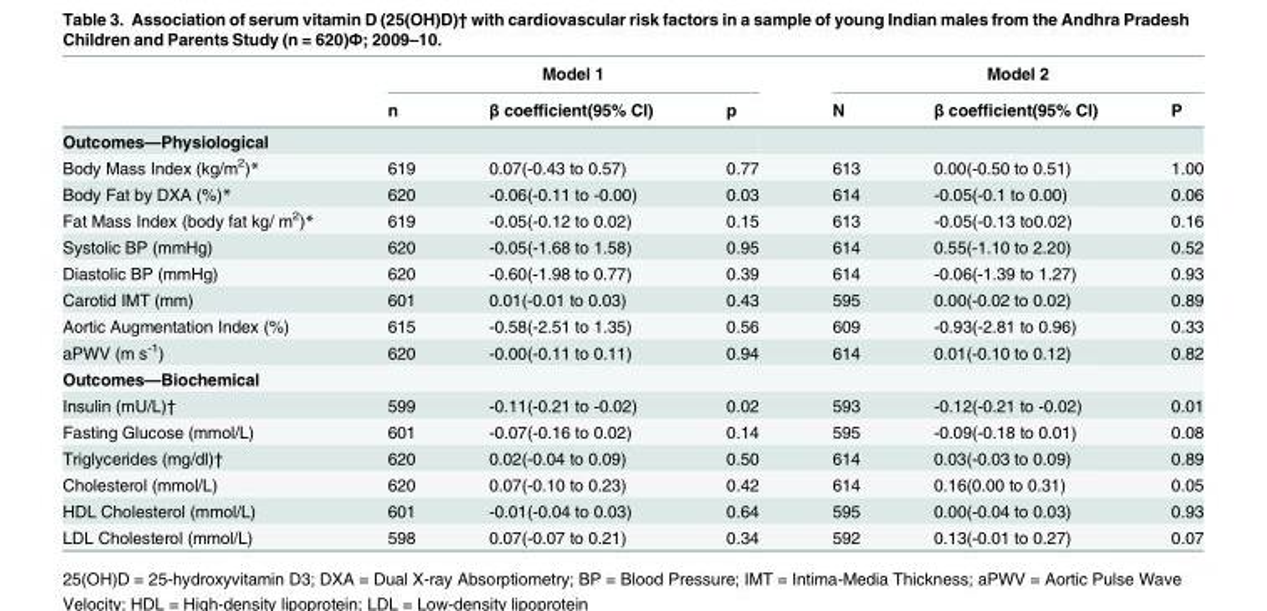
<table><thead><tr><td rowspan="2"></td><td colspan="3">Model 1</td><td colspan="3">Model 2</td></tr><tr><td>n</td><td>β coefficient(95% CI)</td><td>p</td><td>N</td><td>β coefficient(95% CI)</td><td>P</td></tr></thead><tbody><tr><td colspan="7">Outcomes—Physiological</td></tr><tr><td>Body Mass Index (kg/m<sup>2</sup>)*</td><td>619</td><td>0.07(-0.43 to 0.57)</td><td>0.77</td><td>613</td><td>0.00(-0.50 to 0.51)</td><td>1.00</td></tr><tr><td>Body Fat by DXA (%)*</td><td>620</td><td>-0.06(-0.11 to -0.00)</td><td>0.03</td><td>614</td><td>-0.05(-0.1 to 0.00)</td><td>0.06</td></tr><tr><td>Fat Mass Index (body fat kg/ m<sup>2</sup>)*</td><td>619</td><td>-0.05(-0.12 to 0.02)</td><td>0.15</td><td>613</td><td>-0.05(-0.13 to0.02)</td><td>0.16</td></tr><tr><td>Systolic BP (mmHg)</td><td>620</td><td>-0.05(-1.68 to 1.58)</td><td>0.95</td><td>614</td><td>0.55(-1.10 to 2.20)</td><td>0.52</td></tr><tr><td>Diastolic BP (mmHg)</td><td>620</td><td>-0.60(-1.98 to 0.77)</td><td>0.39</td><td>614</td><td>-0.06(-1.39 to 1.27)</td><td>0.93</td></tr><tr><td>Carotid IMT (mm)</td><td>601</td><td>0.01(-0.01 to 0.03)</td><td>0.43</td><td>595</td><td>0.00(-0.02 to 0.02)</td><td>0.89</td></tr><tr><td>Aortic Augmentation Index (%)</td><td>615</td><td>-0.58(-2.51 to 1.35)</td><td>0.56</td><td>609</td><td>-0.93(-2.81 to 0.96)</td><td>0.33</td></tr><tr><td>aPWV (m s<sup>-1</sup>)</td><td>620</td><td>-0.00(-0.11 to 0.11)</td><td>0.94</td><td>614</td><td>0.01(-0.10 to 0.12)</td><td>0.82</td></tr><tr><td colspan="7">Outcomes—Biochemical</td></tr><tr><td>Insulin (mU/L)†</td><td>599</td><td>-0.11(-0.21 to -0.02)</td><td>0.02</td><td>593</td><td>-0.12(-0.21 to -0.02)</td><td>0.01</td></tr><tr><td>Fasting Glucose (mmol/L)</td><td>601</td><td>-0.07(-0.16 to 0.02)</td><td>0.14</td><td>595</td><td>-0.09(-0.18 to 0.01)</td><td>0.08</td></tr><tr><td>Triglycerides (mg/dl)†</td><td>620</td><td>0.02(-0.04 to 0.09)</td><td>0.50</td><td>614</td><td>0.03(-0.03 to 0.09)</td><td>0.89</td></tr><tr><td>Cholesterol (mmol/L)</td><td>620</td><td>0.07(-0.10 to 0.23)</td><td>0.42</td><td>614</td><td>0.16(0.00 to 0.31)</td><td>0.05</td></tr><tr><td>HDL Cholesterol (mmol/L)</td><td>601</td><td>-0.01(-0.04 to 0.03)</td><td>0.64</td><td>595</td><td>0.00(-0.04 to 0.03)</td><td>0.93</td></tr><tr><td>LDL Cholesterol (mmol/L)</td><td>598</td><td>0.07(-0.07 to 0.21)</td><td>0.34</td><td>592</td><td>0.13(-0.01 to 0.27)</td><td>0.07</td></tr></tbody></table>